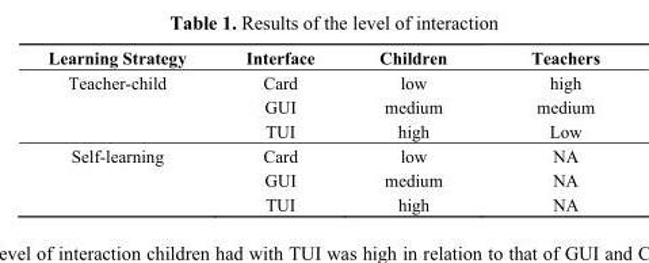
<table><thead><tr><td>Learning Strategy</td><td>Interface</td><td>Children</td><td>Teachers</td></tr></thead><tbody><tr><td rowspan="3">Teacher-child</td><td>Card</td><td>low</td><td>high</td></tr><tr><td>GUI</td><td>medium</td><td>medium</td></tr><tr><td>TUI</td><td>high</td><td>Low</td></tr><tr><td rowspan="3">Self-learning</td><td>Card</td><td>low</td><td>NA</td></tr><tr><td>GUI</td><td>medium</td><td>NA</td></tr><tr><td>TUI</td><td>high</td><td>NA</td></tr></tbody></table>